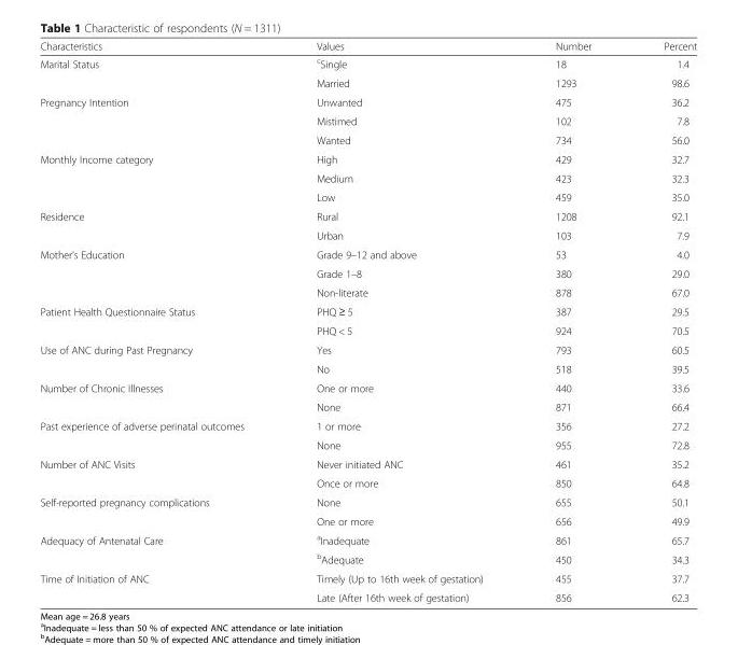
<table><thead><tr><td>Characteristics</td><td>Values</td><td>Number</td><td>Percent</td></tr></thead><tbody><tr><td rowspan="2">Marital Status</td><td><sup>c</sup>Single</td><td>18</td><td>1.4</td></tr><tr><td>Married</td><td>1293</td><td>98.6</td></tr><tr><td rowspan="3">Pregnancy Intention</td><td>Unwanted</td><td>475</td><td>36.2</td></tr><tr><td>Mistimed</td><td>102</td><td>7.8</td></tr><tr><td>Wanted</td><td>734</td><td>56.0</td></tr><tr><td rowspan="3">Monthly Income category</td><td>High</td><td>429</td><td>32.7</td></tr><tr><td>Medium</td><td>423</td><td>32.3</td></tr><tr><td>Low</td><td>459</td><td>35.0</td></tr><tr><td rowspan="2">Residence</td><td>Rural</td><td>1208</td><td>92.1</td></tr><tr><td>Urban</td><td>103</td><td>7.9</td></tr><tr><td rowspan="3">Mother’s Education</td><td>Grade 9–12 and above</td><td>53</td><td>4.0</td></tr><tr><td>Grade 1–8</td><td>380</td><td>29.0</td></tr><tr><td>Non-literate</td><td>878</td><td>67.0</td></tr><tr><td rowspan="2">Patient Health Questionnaire Status</td><td>PHQ ≥ 5</td><td>387</td><td>29.5</td></tr><tr><td>PHQ &lt; 5</td><td>924</td><td>70.5</td></tr><tr><td rowspan="2">Use of ANC during Past Pregnancy</td><td>Yes</td><td>793</td><td>60.5</td></tr><tr><td>No</td><td>518</td><td>39.5</td></tr><tr><td rowspan="2">Number of Chronic Illnesses</td><td>One or more</td><td>440</td><td>33.6</td></tr><tr><td>None</td><td>871</td><td>66.4</td></tr><tr><td rowspan="2">Past experience of adverse perinatal outcomes</td><td>1 or more</td><td>356</td><td>27.2</td></tr><tr><td>None</td><td>955</td><td>72.8</td></tr><tr><td rowspan="2">Number of ANC Visits</td><td>Never initiated ANC</td><td>461</td><td>35.2</td></tr><tr><td>Once or more</td><td>850</td><td>64.8</td></tr><tr><td rowspan="2">Self-reported pregnancy complications</td><td>None</td><td>655</td><td>50.1</td></tr><tr><td>One or more</td><td>656</td><td>49.9</td></tr><tr><td rowspan="2">Adequacy of Antenatal Care</td><td><sup>a</sup>Inadequate</td><td>861</td><td>65.7</td></tr><tr><td><sup>b</sup>Adequate</td><td>450</td><td>34.3</td></tr><tr><td rowspan="2">Time of Initiation of ANC</td><td>Timely (Up to 16th week of gestation)</td><td>455</td><td>37.7</td></tr><tr><td>Late (After 16th week of gestation)</td><td>856</td><td>62.3</td></tr></tbody></table>